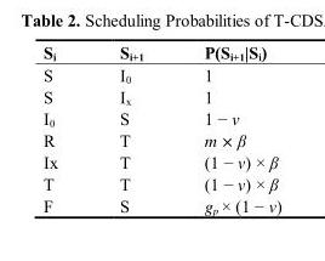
<table><thead><tr><td>S<sub>i</sub></td><td>S<sub>i+1</sub></td><td>P(Si+1|Si)</td></tr></thead><tbody><tr><td>S</td><td>I<sub>0</sub></td><td>1</td></tr><tr><td>S</td><td>I<sub>x</sub></td><td>1</td></tr><tr><td>I<sub>0</sub></td><td>S</td><td>1 − v</td></tr><tr><td>R</td><td>T</td><td>m × β</td></tr><tr><td>Ix</td><td>T</td><td>(1 − v) × β</td></tr><tr><td>T</td><td>T</td><td>(1 − v) × β</td></tr><tr><td>F</td><td>S</td><td>g<sub>p</sub> × (1 − v)</td></tr></tbody></table>